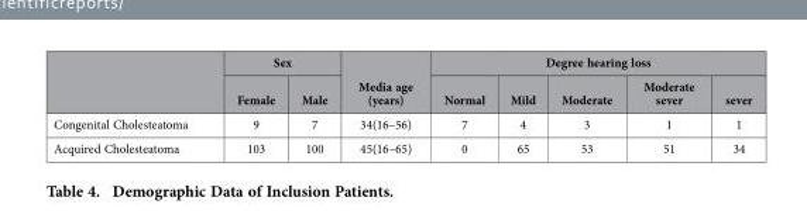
<table><thead><tr><td rowspan="2"></td><td colspan="2">Sex</td><td rowspan="2">Media age (years)</td><td colspan="5">Degree hearing loss</td></tr><tr><td>Female</td><td>Male</td><td>Normal</td><td>Mild</td><td>Moderate</td><td>Moderate sever</td><td>sever</td></tr></thead><tbody><tr><td>Congenital Cholesteatoma</td><td>9</td><td>7</td><td>34(16–56)</td><td>7</td><td>4</td><td>3</td><td>1</td><td>1</td></tr><tr><td>Acquired Cholesteatoma</td><td>103</td><td>100</td><td>45(16–65)</td><td>0</td><td>65</td><td>53</td><td>51</td><td>34</td></tr></tbody></table>